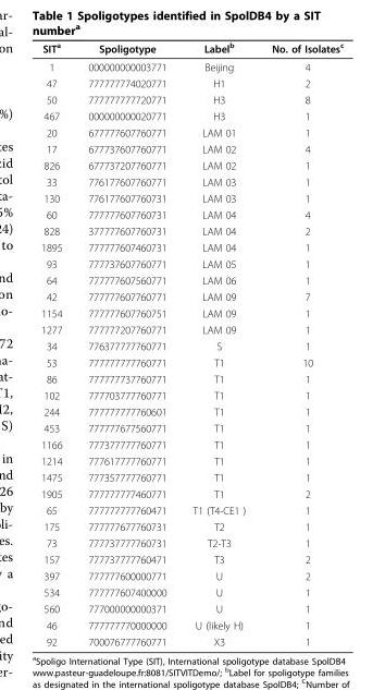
<table><thead><tr><td>SIT<sup>a</sup></td><td>Spoligotype</td><td>Label<sup>b</sup></td><td>No. of Isolates<sup>c</sup></td></tr></thead><tbody><tr><td>1</td><td>000000000003771</td><td>Beijing</td><td>4</td></tr><tr><td>47</td><td>777777774020771</td><td>H1</td><td>2</td></tr><tr><td>50</td><td>777777777720771</td><td>H3</td><td>8</td></tr><tr><td>467</td><td>000000000020771</td><td>H3</td><td>1</td></tr><tr><td>20</td><td>677777607760771</td><td>LAM 01</td><td>1</td></tr><tr><td>17</td><td>677737607760771</td><td>LAM 02</td><td>4</td></tr><tr><td>826</td><td>677737207760771</td><td>LAM 02</td><td>1</td></tr><tr><td>33</td><td>776177607760771</td><td>LAM 03</td><td>1</td></tr><tr><td>130</td><td>776177607760731</td><td>LAM 03</td><td>1</td></tr><tr><td>60</td><td>777777607760731</td><td>LAM 04</td><td>4</td></tr><tr><td>828</td><td>377777607760731</td><td>LAM 04</td><td>2</td></tr><tr><td>1895</td><td>777777607460731</td><td>LAM 04</td><td>1</td></tr><tr><td>93</td><td>777737607760771</td><td>LAM 05</td><td>1</td></tr><tr><td>64</td><td>777777607560771</td><td>LAM 06</td><td>1</td></tr><tr><td>42</td><td>777777607760771</td><td>LAM 09</td><td>7</td></tr><tr><td>1154</td><td>777777607760751</td><td>LAM 09</td><td>1</td></tr><tr><td>1277</td><td>777777207760771</td><td>LAM 09</td><td>1</td></tr><tr><td>34</td><td>776377777760771</td><td>S</td><td>1</td></tr><tr><td>53</td><td>777777777760771</td><td>T1</td><td>10</td></tr><tr><td>86</td><td>777777737760771</td><td>T1</td><td>1</td></tr><tr><td>102</td><td>777703777760771</td><td>T1</td><td>1</td></tr><tr><td>244</td><td>777777777760601</td><td>T1</td><td>1</td></tr><tr><td>453</td><td>777777677560771</td><td>T1</td><td>1</td></tr><tr><td>1166</td><td>777377777760771</td><td>T1</td><td>1</td></tr><tr><td>1214</td><td>777617777760771</td><td>T1</td><td>1</td></tr><tr><td>1475</td><td>777357777760771</td><td>T1</td><td>1</td></tr><tr><td>1905</td><td>777777777460771</td><td>T1</td><td>2</td></tr><tr><td>65</td><td>777777777760471</td><td>T1 (T4-CE1 )</td><td>1</td></tr><tr><td>175</td><td>777777677760731</td><td>T2</td><td>1</td></tr><tr><td>73</td><td>777737777760731</td><td>T2-T3</td><td>1</td></tr><tr><td>157</td><td>777737777760471</td><td>T3</td><td>2</td></tr><tr><td>397</td><td>777777600000771</td><td>U</td><td>2</td></tr><tr><td>534</td><td>777777607400000</td><td>U</td><td>1</td></tr><tr><td>560</td><td>777000000000371</td><td>U</td><td>1</td></tr><tr><td>46</td><td>777777770000000</td><td>U (likely H)</td><td>1</td></tr><tr><td>92</td><td>700076777760771</td><td>X3</td><td>1</td></tr></tbody></table>